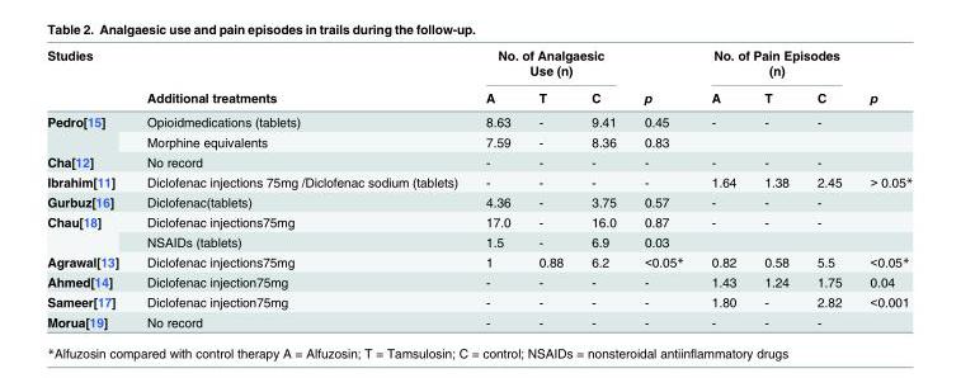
<table><thead><tr><td rowspan="2">Studies</td><td rowspan="2">Additional treatments</td><td colspan="3">No. of Analgaesic Use (n)</td><td rowspan="2">p</td><td colspan="3">No. of Pain Episodes (n)</td><td rowspan="2">p</td></tr><tr><td>A</td><td>T</td><td>C</td><td>A</td><td>T</td><td>C</td></tr></thead><tbody><tr><td rowspan="2">Pedro[15]</td><td>Opioidmedications (tablets)</td><td>8.63</td><td>-</td><td>9.41</td><td>0.45</td><td>-</td><td>-</td><td>-</td><td></td></tr><tr><td>Morphine equivalents</td><td>7.59</td><td>-</td><td>8.36</td><td>0.83</td><td></td><td></td><td></td><td></td></tr><tr><td>Cha[12]</td><td>No record</td><td>-</td><td>-</td><td>-</td><td>-</td><td>-</td><td>-</td><td>-</td><td></td></tr><tr><td>Ibrahim[11]</td><td>Diclofenac injections 75mg /Diclofenac sodium (tablets)</td><td>-</td><td>-</td><td>-</td><td>-</td><td>1.64</td><td>1.38</td><td>2.45</td><td>&gt; 0.05*</td></tr><tr><td>Gurbuz[16]</td><td>Diclofenac(tablets)</td><td>4.36</td><td>-</td><td>3.75</td><td>0.57</td><td>-</td><td>-</td><td>-</td><td></td></tr><tr><td rowspan="2">Chau[18]</td><td>Diclofenac injections75mg</td><td>17.0</td><td>-</td><td>16.0</td><td>0.87</td><td>-</td><td>-</td><td>-</td><td></td></tr><tr><td>NSAIDs (tablets)</td><td>1.5</td><td>-</td><td>6.9</td><td>0.03</td><td></td><td></td><td></td><td></td></tr><tr><td>Agrawal[13]</td><td>Diclofenac injections75mg</td><td>1</td><td>0.88</td><td>6.2</td><td>&lt;0.05*</td><td>0.82</td><td>0.58</td><td>5.5</td><td>&lt;0.05*</td></tr><tr><td>Ahmed[14]</td><td>Diclofenac injection75mg</td><td>-</td><td>-</td><td>-</td><td>-</td><td>1.43</td><td>1.24</td><td>1.75</td><td>0.04</td></tr><tr><td>Sameer[17]</td><td>Diclofenac injection75mg</td><td>-</td><td>-</td><td>-</td><td>-</td><td>1.80</td><td>-</td><td>2.82</td><td>&lt;0.001</td></tr><tr><td>Morua[19]</td><td>No record</td><td>-</td><td>-</td><td>-</td><td>-</td><td>-</td><td>-</td><td>-</td><td></td></tr></tbody></table>